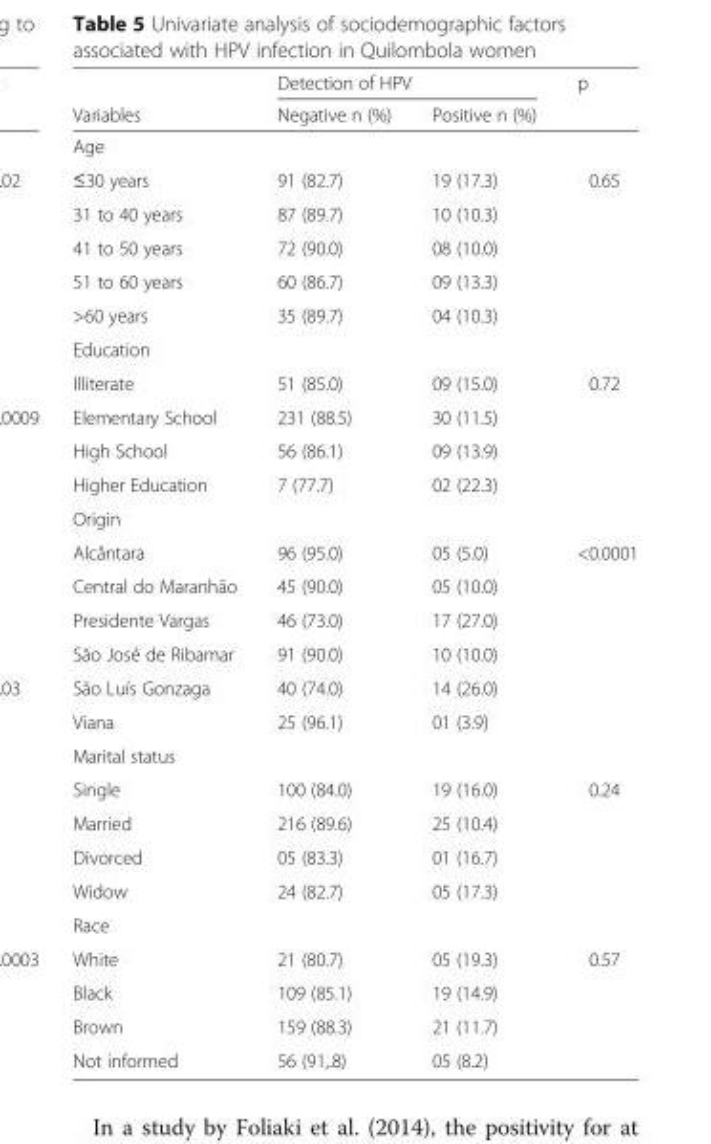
<table><thead><tr><td rowspan="2">Variables</td><td colspan="2">Detection of HPV</td><td rowspan="2">p</td></tr><tr><td>Negative n (%)</td><td>Positive n (%)</td></tr></thead><tbody><tr><td colspan="4">Age</td></tr><tr><td>≤30 years</td><td>91 (82.7)</td><td>19 (17.3)</td><td>0.65</td></tr><tr><td>31 to 40 years</td><td>87 (89.7)</td><td>10 (10.3)</td><td></td></tr><tr><td>41 to 50 years</td><td>72 (90.0)</td><td>08 (10.0)</td><td></td></tr><tr><td>51 to 60 years</td><td>60 (86.7)</td><td>09 (13.3)</td><td></td></tr><tr><td>&gt;60 years</td><td>35 (89.7)</td><td>04 (10.3)</td><td></td></tr><tr><td colspan="4">Education</td></tr><tr><td>Illiterate</td><td>51 (85.0)</td><td>09 (15.0)</td><td>0.72</td></tr><tr><td>Elementary School</td><td>231 (88.5)</td><td>30 (11.5)</td><td></td></tr><tr><td>High School</td><td>56 (86.1)</td><td>09 (13.9)</td><td></td></tr><tr><td>Higher Education</td><td>7 (77.7)</td><td>02 (22.3)</td><td></td></tr><tr><td colspan="4">Origin</td></tr><tr><td>Alcântara</td><td>96 (95.0)</td><td>05 (5.0)</td><td>&lt;0.0001</td></tr><tr><td>Central do Maranhão</td><td>45 (90.0)</td><td>05 (10.0)</td><td></td></tr><tr><td>Presidente Vargas</td><td>46 (73.0)</td><td>17 (27.0)</td><td></td></tr><tr><td>São José de Ribamar</td><td>91 (90.0)</td><td>10 (10.0)</td><td></td></tr><tr><td>São Luís Gonzaga</td><td>40 (74.0)</td><td>14 (26.0)</td><td></td></tr><tr><td>Viana</td><td>25 (96.1)</td><td>01 (3.9)</td><td></td></tr><tr><td colspan="4">Marital status</td></tr><tr><td>Single</td><td>100 (84.0)</td><td>19 (16.0)</td><td>0.24</td></tr><tr><td>Married</td><td>216 (89.6)</td><td>25 (10.4)</td><td></td></tr><tr><td>Divorced</td><td>05 (83.3)</td><td>01 (16.7)</td><td></td></tr><tr><td>Widow</td><td>24 (82.7)</td><td>05 (17.3)</td><td></td></tr><tr><td colspan="4">Race</td></tr><tr><td>White</td><td>21 (80.7)</td><td>05 (19.3)</td><td>0.57</td></tr><tr><td>Black</td><td>109 (85.1)</td><td>19 (14.9)</td><td></td></tr><tr><td>Brown</td><td>159 (88.3)</td><td>21 (11.7)</td><td></td></tr><tr><td>Not informed</td><td>56 (91,.8)</td><td>05 (8.2)</td><td></td></tr></tbody></table>